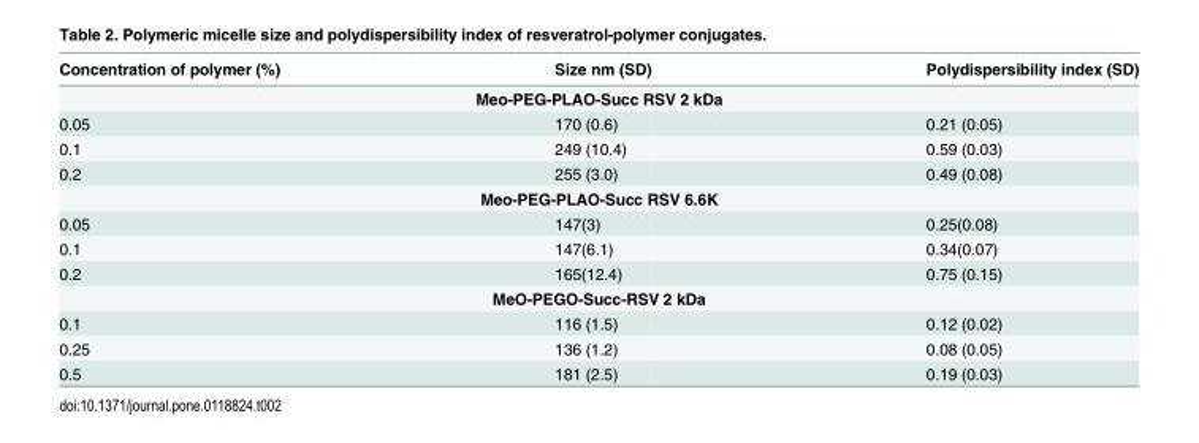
<table><thead><tr><td>Concentration of polymer (%)</td><td>Size nm (SD)</td><td>Polydispersibility index (SD)</td></tr></thead><tbody><tr><td colspan="3">Meo-PEG-PLAO-Succ RSV 2 kDa</td></tr><tr><td>0.05</td><td>170 (0.6)</td><td>0.21 (0.05)</td></tr><tr><td>0.1</td><td>249 (10.4)</td><td>0.59 (0.03)</td></tr><tr><td>0.2</td><td>255 (3.0)</td><td>0.49 (0.08)</td></tr><tr><td colspan="3">Meo-PEG-PLAO-Succ RSV 6.6K</td></tr><tr><td>0.05</td><td>147(3)</td><td>0.25(0.08)</td></tr><tr><td>0.1</td><td>147(6.1)</td><td>0.34(0.07)</td></tr><tr><td>0.2</td><td>165(12.4)</td><td>0.75 (0.15)</td></tr><tr><td colspan="3">MeO-PEGO-Succ-RSV 2 kDa</td></tr><tr><td>0.1</td><td>116 (1.5)</td><td>0.12 (0.02)</td></tr><tr><td>0.25</td><td>136 (1.2)</td><td>0.08 (0.05)</td></tr><tr><td>0.5</td><td>181 (2.5)</td><td>0.19 (0.03)</td></tr></tbody></table>